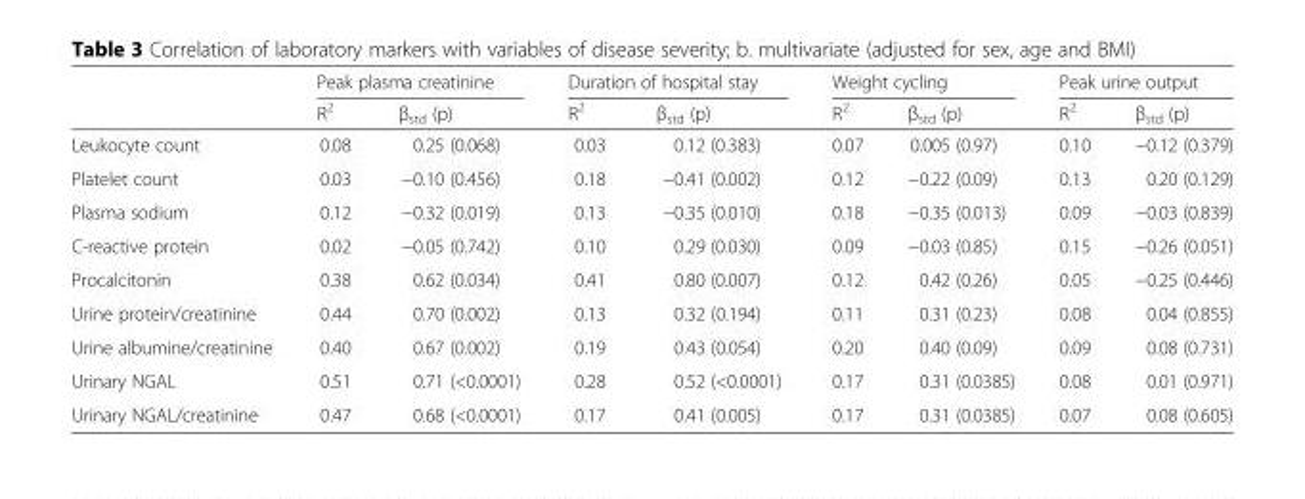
<table><thead><tr><td rowspan="2"></td><td colspan="2">Peak plasma creatinine</td><td colspan="2">Duration of hospital stay</td><td colspan="2">Weight cycling</td><td colspan="2">Peak urine output</td></tr><tr><td>R<sup>2</sup></td><td>β<sub>std</sub> (p)</td><td>R<sup>2</sup></td><td>β<sub>std</sub> (p)</td><td>R<sup>2</sup></td><td>β<sub>std</sub> (p)</td><td>R<sup>2</sup></td><td>β<sub>std</sub> (p)</td></tr></thead><tbody><tr><td>Leukocyte count</td><td>0.08</td><td>0.25 (0.068)</td><td>0.03</td><td>0.12 (0.383)</td><td>0.07</td><td>0.005 (0.97)</td><td>0.10</td><td>−0.12 (0.379)</td></tr><tr><td>Platelet count</td><td>0.03</td><td>−0.10 (0.456)</td><td>0.18</td><td>−0.41 (0.002)</td><td>0.12</td><td>−0.22 (0.09)</td><td>0.13</td><td>0.20 (0.129)</td></tr><tr><td>Plasma sodium</td><td>0.12</td><td>−0.32 (0.019)</td><td>0.13</td><td>−0.35 (0.010)</td><td>0.18</td><td>−0.35 (0.013)</td><td>0.09</td><td>−0.03 (0.839)</td></tr><tr><td>C-reactive protein</td><td>0.02</td><td>−0.05 (0.742)</td><td>0.10</td><td>0.29 (0.030)</td><td>0.09</td><td>−0.03 (0.85)</td><td>0.15</td><td>−0.26 (0.051)</td></tr><tr><td>Procalcitonin</td><td>0.38</td><td>0.62 (0.034)</td><td>0.41</td><td>0.80 (0.007)</td><td>0.12</td><td>0.42 (0.26)</td><td>0.05</td><td>−0.25 (0.446)</td></tr><tr><td>Urine protein/creatinine</td><td>0.44</td><td>0.70 (0.002)</td><td>0.13</td><td>0.32 (0.194)</td><td>0.11</td><td>0.31 (0.23)</td><td>0.08</td><td>0.04 (0.855)</td></tr><tr><td>Urine albumine/creatinine</td><td>0.40</td><td>0.67 (0.002)</td><td>0.19</td><td>0.43 (0.054)</td><td>0.20</td><td>0.40 (0.09)</td><td>0.09</td><td>0.08 (0.731)</td></tr><tr><td>Urinary NGAL</td><td>0.51</td><td>0.71 (&lt;0.0001)</td><td>0.28</td><td>0.52 (&lt;0.0001)</td><td>0.17</td><td>0.31 (0.0385)</td><td>0.08</td><td>0.01 (0.971)</td></tr><tr><td>Urinary NGAL/creatinine</td><td>0.47</td><td>0.68 (&lt;0.0001)</td><td>0.17</td><td>0.41 (0.005)</td><td>0.17</td><td>0.31 (0.0385)</td><td>0.07</td><td>0.08 (0.605)</td></tr></tbody></table>